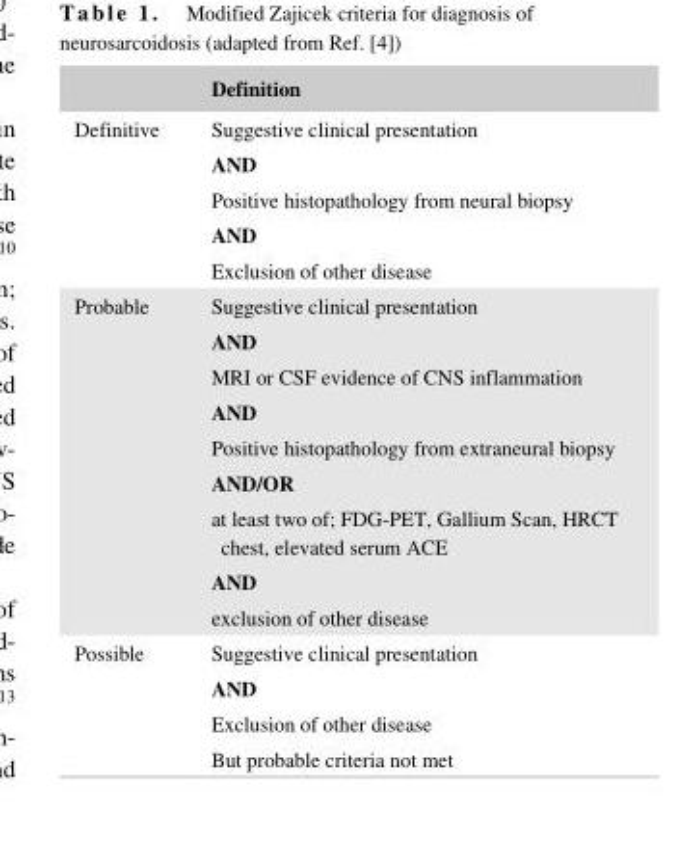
<table><thead><tr><td></td><td>Definition</td></tr></thead><tbody><tr><td rowspan="5">Definitive</td><td>Suggestive clinical presentation</td></tr><tr><td>AND</td></tr><tr><td>Positive histopathology from neural biopsy</td></tr><tr><td>AND</td></tr><tr><td>Exclusion of other disease</td></tr><tr><td rowspan="9">Probable</td><td>Suggestive clinical presentation</td></tr><tr><td>AND</td></tr><tr><td>MRI or CSF evidence of CNS inflammation</td></tr><tr><td>AND</td></tr><tr><td>Positive histopathology from extraneural biopsy</td></tr><tr><td>AND/OR</td></tr><tr><td>at least two of; FDG- PET, Gallium Scan, HRCT chest, elevated serum ACE</td></tr><tr><td>AND</td></tr><tr><td>exclusion of other disease</td></tr><tr><td rowspan="4">Possible</td><td>Suggestive clinical presentation</td></tr><tr><td>AND</td></tr><tr><td>Exclusion of other disease</td></tr><tr><td>But probable criteria not met</td></tr></tbody></table>